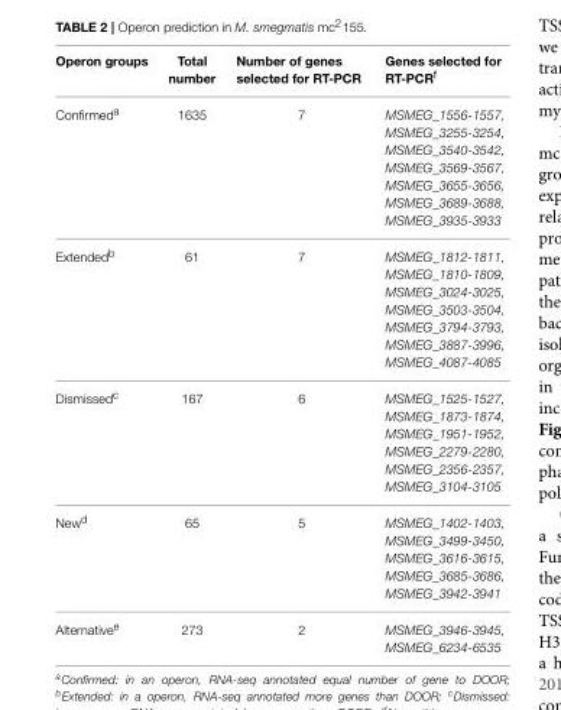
<table><thead><tr><td>Operon groups</td><td>Total number</td><td>Number of genes selected for RT-PCR</td><td>Genes selected for RT-PCR<sup>f</sup></td></tr></thead><tbody><tr><td>Confirmed<sup>a</sup></td><td>1635</td><td>7</td><td>MSMEG_1556-1557, MSMEG_3255-3254, MSMEG_3540-3542, MSMEG_3569-3567, MSMEG_3655-3656, MSMEG_3689-3688, MSMEG_3935-3933</td></tr><tr><td>Extended<sup>b</sup></td><td>61</td><td>7</td><td>MSMEG_1812-1811, MSMEG_1810-1809, MSMEG_3024-3025, MSMEG_3503-3504, MSMEG_3794-3793, MSMEG_3887-3996, MSMEG_4087-4085</td></tr><tr><td>Dismissed<sup>c</sup></td><td>167</td><td>6</td><td>MSMEG_1525-1527, MSMEG_1873-1874, MSMEG_1951-1952, MSMEG_2279-2280, MSMEG_2356-2357, MSMEG_3104-3105</td></tr><tr><td>New<sup>d</sup></td><td>65</td><td>5</td><td>MSMEG_1402-1403, MSMEG_3499-3450, MSMEG_3616-3615, MSMEG_3685-3686, MSMEG_3942-3941</td></tr><tr><td>Alternative<sup>e</sup></td><td>273</td><td>2</td><td>MSMEG_3946-3945, MSMEG_6234-6535</td></tr></tbody></table>